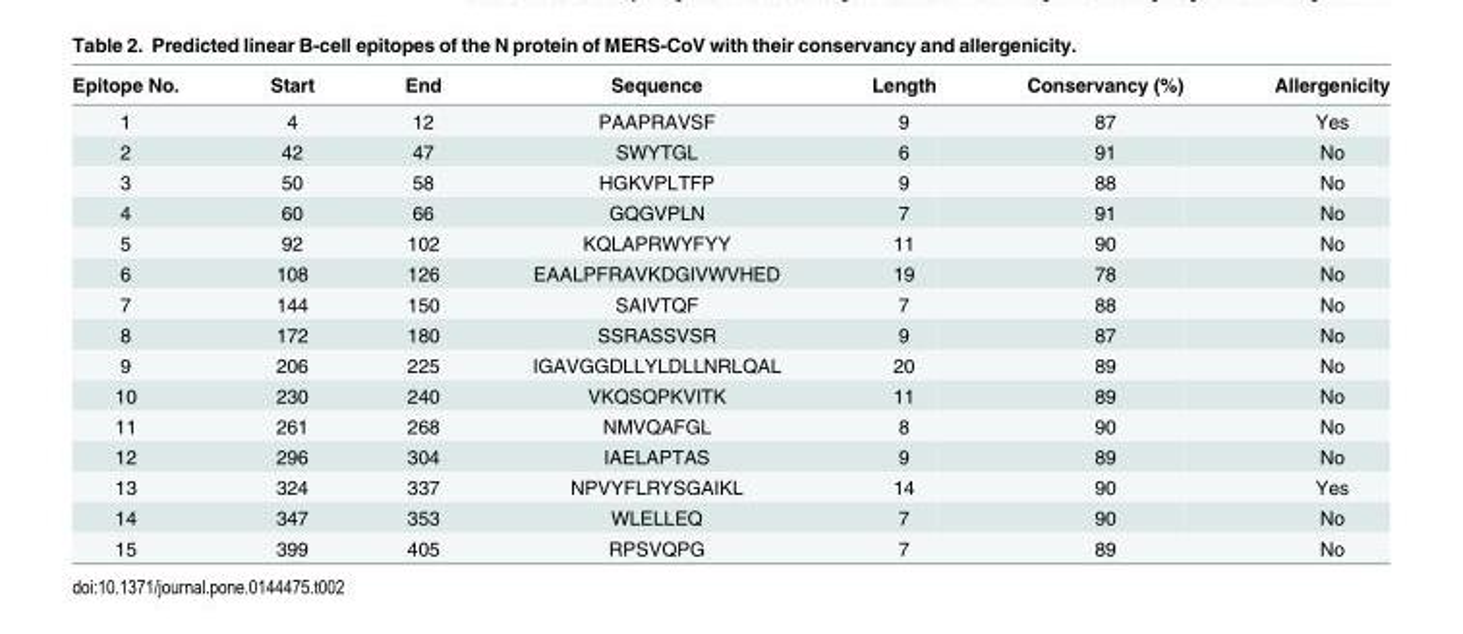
<table><thead><tr><td>Epitope No.</td><td>Start</td><td>End</td><td>Sequence</td><td>Length</td><td>Conservancy (%)</td><td>Allergenicity</td></tr></thead><tbody><tr><td>1</td><td>4</td><td>12</td><td>PAAPRAVSF</td><td>9</td><td>87</td><td>Yes</td></tr><tr><td>2</td><td>42</td><td>47</td><td>SWYTGL</td><td>6</td><td>91</td><td>No</td></tr><tr><td>3</td><td>50</td><td>58</td><td>HGKVPLTFP</td><td>9</td><td>88</td><td>No</td></tr><tr><td>4</td><td>60</td><td>66</td><td>GQGVPLN</td><td>7</td><td>91</td><td>No</td></tr><tr><td>5</td><td>92</td><td>102</td><td>KQLAPRWYFYY</td><td>11</td><td>90</td><td>No</td></tr><tr><td>6</td><td>108</td><td>126</td><td>EAALPFRAVKDGIVWVHED</td><td>19</td><td>78</td><td>No</td></tr><tr><td>7</td><td>144</td><td>150</td><td>SAIVTQF</td><td>7</td><td>88</td><td>No</td></tr><tr><td>8</td><td>172</td><td>180</td><td>SSRASSVSR</td><td>9</td><td>87</td><td>No</td></tr><tr><td>9</td><td>206</td><td>225</td><td>IGAVGGDLLYLDLLNRLQAL</td><td>20</td><td>89</td><td>No</td></tr><tr><td>10</td><td>230</td><td>240</td><td>VKQSQPKVITK</td><td>11</td><td>89</td><td>No</td></tr><tr><td>11</td><td>261</td><td>268</td><td>NMVQAFGL</td><td>8</td><td>90</td><td>No</td></tr><tr><td>12</td><td>296</td><td>304</td><td>IAELAPTAS</td><td>9</td><td>89</td><td>No</td></tr><tr><td>13</td><td>324</td><td>337</td><td>NPVYFLRYSGAIKL</td><td>14</td><td>90</td><td>Yes</td></tr><tr><td>14</td><td>347</td><td>353</td><td>WLELLEQ</td><td>7</td><td>90</td><td>No</td></tr><tr><td>15</td><td>399</td><td>405</td><td>RPSVQPG</td><td>7</td><td>89</td><td>No</td></tr></tbody></table>